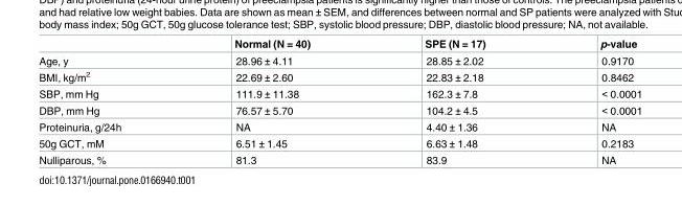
<table><thead><tr><td></td><td>Normal (N = 40)</td><td>SPE (N = 17)</td><td>p-value</td></tr></thead><tbody><tr><td>Age, y</td><td>28.96 ± 4.11</td><td>28.85 ± 2.02</td><td>0.9170</td></tr><tr><td>BMI, kg/m<sup>2</sup></td><td>22.69 ± 2.60</td><td>22.83 ± 2.18</td><td>0.8462</td></tr><tr><td>SBP, mm Hg</td><td>111.9 ± 11.38</td><td>162.3 ± 7.8</td><td>&lt; 0.0001</td></tr><tr><td>DBP, mm Hg</td><td>76.57 ± 5.70</td><td>104.2 ± 4.5</td><td>&lt; 0.0001</td></tr><tr><td>Proteinuria, g/24h</td><td>NA</td><td>4.40 ± 1.36</td><td>NA</td></tr><tr><td>50g GCT, mM</td><td>6.51 ± 1.45</td><td>6.63 ± 1.48</td><td>0.2183</td></tr><tr><td>Nulliparous, %</td><td>81.3</td><td>83.9</td><td>NA</td></tr></tbody></table>